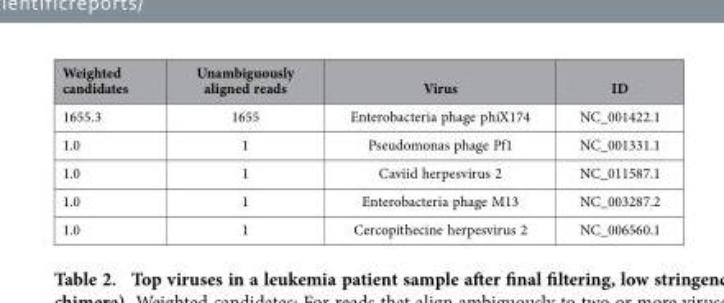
<table><thead><tr><td>Weighted candidates</td><td>Unambiguously aligned reads</td><td>Virus</td><td>ID</td></tr></thead><tbody><tr><td>1655.3</td><td>1655</td><td>Enterobacteria phage phiX174</td><td>NC_001422.1</td></tr><tr><td>1.0</td><td>1</td><td>Pseudomonas phage Pf1</td><td>NC_001331.1</td></tr><tr><td>1.0</td><td>1</td><td>Caviid herpesvirus 2</td><td>NC_011587.1</td></tr><tr><td>1.0</td><td>1</td><td>Enterobacteria phage M13</td><td>NC_003287.2</td></tr><tr><td>1.0</td><td>1</td><td>Cercopithecine herpesvirus 2</td><td>NC_006560.1</td></tr></tbody></table>